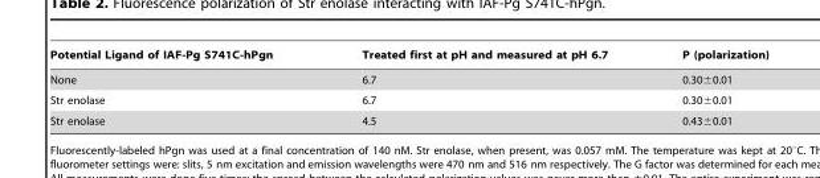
<table><thead><tr><td>Potential Ligand of IAF-Pg S741C-hPgn</td><td>Treated first at pH and measured at pH 6.7</td><td>P (polarization)</td></tr></thead><tbody><tr><td>None</td><td>6.7</td><td>0.30±0.01</td></tr><tr><td>Str enolase</td><td>6.7</td><td>0.30±0.01</td></tr><tr><td>Str enolase</td><td>4.5</td><td>0.43±0.01</td></tr></tbody></table>